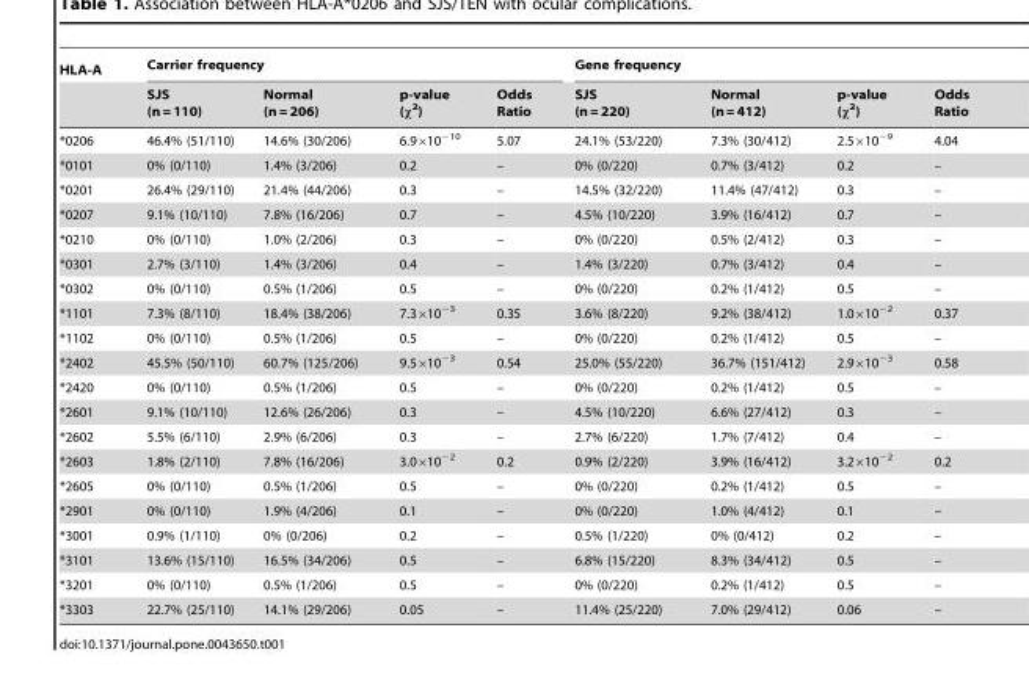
<table><thead><tr><td rowspan="2">HLA-A</td><td colspan="4">Carrier frequency</td><td colspan="4">Gene frequency</td></tr><tr><td>SJS (n = 110)</td><td>Normal (n = 206)</td><td>p-value (χ<sup>2</sup>)</td><td>Odds Ratio</td><td>SJS (n = 220)</td><td>Normal (n = 412)</td><td>p-value (χ<sup>2</sup>)</td><td>Odds Ratio</td></tr></thead><tbody><tr><td>*0206</td><td>46.4% (51/110)</td><td>14.6% (30/206)</td><td>6.9×10<sup>−10</sup></td><td>5.07</td><td>24.1% (53/220)</td><td>7.3% (30/412)</td><td>2.5×10<sup>−9</sup></td><td>4.04</td></tr><tr><td>*0101</td><td>0% (0/110)</td><td>1.4% (3/206)</td><td>0.2</td><td>–</td><td>0% (0/220)</td><td>0.7% (3/412)</td><td>0.2</td><td>–</td></tr><tr><td>*0201</td><td>26.4% (29/110)</td><td>21.4% (44/206)</td><td>0.3</td><td>–</td><td>14.5% (32/220)</td><td>11.4% (47/412)</td><td>0.3</td><td>–</td></tr><tr><td>*0207</td><td>9.1% (10/110)</td><td>7.8% (16/206)</td><td>0.7</td><td>–</td><td>4.5% (10/220)</td><td>3.9% (16/412)</td><td>0.7</td><td>–</td></tr><tr><td>*0210</td><td>0% (0/110)</td><td>1.0% (2/206)</td><td>0.3</td><td>–</td><td>0% (0/220)</td><td>0.5% (2/412)</td><td>0.3</td><td>–</td></tr><tr><td>*0301</td><td>2.7% (3/110)</td><td>1.4% (3/206)</td><td>0.4</td><td>–</td><td>1.4% (3/220)</td><td>0.7% (3/412)</td><td>0.4</td><td>–</td></tr><tr><td>*0302</td><td>0% (0/110)</td><td>0.5% (1/206)</td><td>0.5</td><td>–</td><td>0% (0/220)</td><td>0.2% (1/412)</td><td>0.5</td><td>–</td></tr><tr><td>*1101</td><td>7.3% (8/110)</td><td>18.4% (38/206)</td><td>7.3×10<sup>−3</sup></td><td>0.35</td><td>3.6% (8/220)</td><td>9.2% (38/412)</td><td>1.0×10<sup>−2</sup></td><td>0.37</td></tr><tr><td>*1102</td><td>0% (0/110)</td><td>0.5% (1/206)</td><td>0.5</td><td>–</td><td>0% (0/220)</td><td>0.2% (1/412)</td><td>0.5</td><td>–</td></tr><tr><td>*2402</td><td>45.5% (50/110)</td><td>60.7% (125/206)</td><td>9.5×10<sup>−3</sup></td><td>0.54</td><td>25.0% (55/220)</td><td>36.7% (151/412)</td><td>2.9×10<sup>−3</sup></td><td>0.58</td></tr><tr><td>*2420</td><td>0% (0/110)</td><td>0.5% (1/206)</td><td>0.5</td><td>–</td><td>0% (0/220)</td><td>0.2% (1/412)</td><td>0.5</td><td>–</td></tr><tr><td>*2601</td><td>9.1% (10/110)</td><td>12.6% (26/206)</td><td>0.3</td><td>–</td><td>4.5% (10/220)</td><td>6.6% (27/412)</td><td>0.3</td><td>–</td></tr><tr><td>*2602</td><td>5.5% (6/110)</td><td>2.9% (6/206)</td><td>0.3</td><td>–</td><td>2.7% (6/220)</td><td>1.7% (7/412)</td><td>0.4</td><td>–</td></tr><tr><td>*2603</td><td>1.8% (2/110)</td><td>7.8% (16/206)</td><td>3.0×10<sup>−2</sup></td><td>0.2</td><td>0.9% (2/220)</td><td>3.9% (16/412)</td><td>3.2×10<sup>−2</sup></td><td>0.2</td></tr><tr><td>*2605</td><td>0% (0/110)</td><td>0.5% (1/206)</td><td>0.5</td><td>–</td><td>0% (0/220)</td><td>0.2% (1/412)</td><td>0.5</td><td>–</td></tr><tr><td>*2901</td><td>0% (0/110)</td><td>1.9% (4/206)</td><td>0.1</td><td>–</td><td>0% (0/220)</td><td>1.0% (4/412)</td><td>0.1</td><td>–</td></tr><tr><td>*3001</td><td>0.9% (1/110)</td><td>0% (0/206)</td><td>0.2</td><td>–</td><td>0.5% (1/220)</td><td>0% (0/412)</td><td>0.2</td><td>–</td></tr><tr><td>*3101</td><td>13.6% (15/110)</td><td>16.5% (34/206)</td><td>0.5</td><td>–</td><td>6.8% (15/220)</td><td>8.3% (34/412)</td><td>0.5</td><td>–</td></tr><tr><td>*3201</td><td>0% (0/110)</td><td>0.5% (1/206)</td><td>0.5</td><td>–</td><td>0% (0/220)</td><td>0.2% (1/412)</td><td>0.5</td><td>–</td></tr><tr><td>*3303</td><td>22.7% (25/110)</td><td>14.1% (29/206)</td><td>0.05</td><td>–</td><td>11.4% (25/220)</td><td>7.0% (29/412)</td><td>0.06</td><td>–</td></tr></tbody></table>